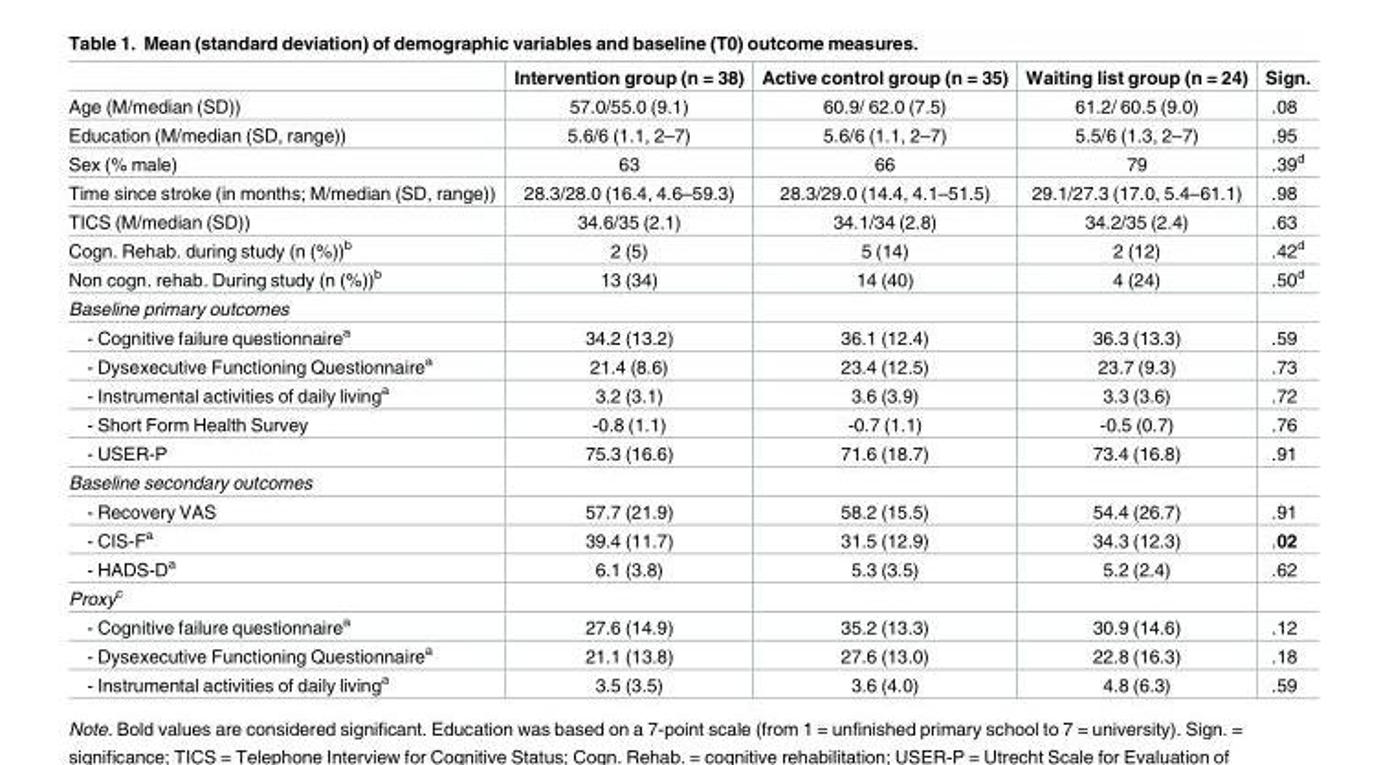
<table><thead><tr><td></td><td>Intervention group (n = 38)</td><td>Active control group (n = 35)</td><td>Waiting list group (n = 24)</td><td>Sign.</td></tr></thead><tbody><tr><td>Age (M/median (SD))</td><td>57.0/55.0 (9.1)</td><td>60.9/ 62.0 (7.5)</td><td>61.2/ 60.5 (9.0)</td><td>.08</td></tr><tr><td>Education (M/median (SD, range))</td><td>5.6/6 (1.1, 2–7)</td><td>5.6/6 (1.1, 2–7)</td><td>5.5/6 (1.3, 2–7)</td><td>.95</td></tr><tr><td>Sex (% male)</td><td>63</td><td>66</td><td>79</td><td>.39<sup>d</sup></td></tr><tr><td>Time since stroke (in months; M/median (SD, range))</td><td>28.3/28.0 (16.4, 4.6–59.3)</td><td>28.3/29.0 (14.4, 4.1–51.5)</td><td>29.1/27.3 (17.0, 5.4–61.1)</td><td>.98</td></tr><tr><td>TICS (M/median (SD))</td><td>34.6/35 (2.1)</td><td>34.1/34 (2.8)</td><td>34.2/35 (2.4)</td><td>.63</td></tr><tr><td>Cogn. Rehab. during study (n (%))<sup>b</sup></td><td>2 (5)</td><td>5 (14)</td><td>2 (12)</td><td>.42<sup>d</sup></td></tr><tr><td>Non cogn. rehab. During study (n (%))<sup>b</sup></td><td>13 (34)</td><td>14 (40)</td><td>4 (24)</td><td>.50<sup>d</sup></td></tr><tr><td colspan="5">Baseline primary outcomes</td></tr><tr><td>- Cognitive failure questionnaire<sup>a</sup></td><td>34.2 (13.2)</td><td>36.1 (12.4)</td><td>36.3 (13.3)</td><td>.59</td></tr><tr><td>- Dysexecutive Functioning Questionnaire<sup>a</sup></td><td>21.4 (8.6)</td><td>23.4 (12.5)</td><td>23.7 (9.3)</td><td>.73</td></tr><tr><td>- Instrumental activities of daily living<sup>a</sup></td><td>3.2 (3.1)</td><td>3.6 (3.9)</td><td>3.3 (3.6)</td><td>.72</td></tr><tr><td>- Short Form Health Survey</td><td>-0.8 (1.1)</td><td>-0.7 (1.1)</td><td>-0.5 (0.7)</td><td>.76</td></tr><tr><td>- USER-P</td><td>75.3 (16.6)</td><td>71.6 (18.7)</td><td>73.4 (16.8)</td><td>.91</td></tr><tr><td colspan="5">Baseline secondary outcomes</td></tr><tr><td>- Recovery VAS</td><td>57.7 (21.9)</td><td>58.2 (15.5)</td><td>54.4 (26.7)</td><td>.91</td></tr><tr><td>- CIS-F<sup>a</sup></td><td>39.4 (11.7)</td><td>31.5 (12.9)</td><td>34.3 (12.3)</td><td>.02</td></tr><tr><td>- HADS-D<sup>a</sup></td><td>6.1 (3.8)</td><td>5.3 (3.5)</td><td>5.2 (2.4)</td><td>.62</td></tr><tr><td colspan="5">Proxy<sup>c</sup></td></tr><tr><td>- Cognitive failure questionnaire<sup>a</sup></td><td>27.6 (14.9)</td><td>35.2 (13.3)</td><td>30.9 (14.6)</td><td>.12</td></tr><tr><td>- Dysexecutive Functioning Questionnaire<sup>a</sup></td><td>21.1 (13.8)</td><td>27.6 (13.0)</td><td>22.8 (16.3)</td><td>.18</td></tr><tr><td>- Instrumental activities of daily living<sup>a</sup></td><td>3.5 (3.5)</td><td>3.6 (4.0)</td><td>4.8 (6.3)</td><td>.59</td></tr></tbody></table>